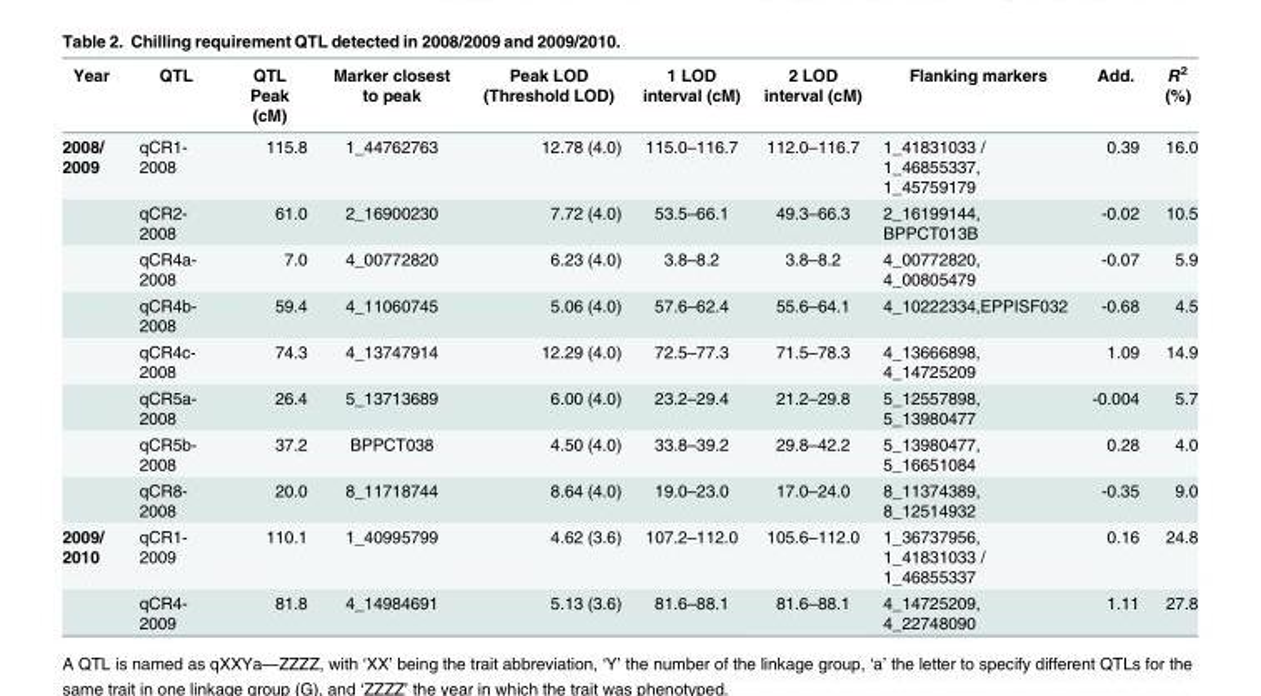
<table><thead><tr><td>Year</td><td>QTL</td><td>QTL Peak (cM)</td><td>Marker closest to peak</td><td>Peak LOD (Threshold LOD)</td><td>1 LOD interval (cM)</td><td>2 LOD interval (cM)</td><td>Flanking markers</td><td>Add.</td><td>R<sup>2</sup> (%)</td></tr></thead><tbody><tr><td rowspan="8">2008/ 2009</td><td>qCR1- 2008</td><td>115.8</td><td>1_44762763</td><td>12.78 (4.0)</td><td>115.0–116.7</td><td>112.0–116.7</td><td>1_41831033 / 1_46855337, 1_45759179</td><td>0.39</td><td>16.0</td></tr><tr><td>qCR2- 2008</td><td>61.0</td><td>2_16900230</td><td>7.72 (4.0)</td><td>53.5–66.1</td><td>49.3–66.3</td><td>2_16199144, BPPCT013B</td><td>-0.02</td><td>10.5</td></tr><tr><td>qCR4a- 2008</td><td>7.0</td><td>4_00772820</td><td>6.23 (4.0)</td><td>3.8–8.2</td><td>3.8–8.2</td><td>4_00772820, 4_00805479</td><td>-0.07</td><td>5.9</td></tr><tr><td>qCR4b- 2008</td><td>59.4</td><td>4_11060745</td><td>5.06 (4.0)</td><td>57.6–62.4</td><td>55.6–64.1</td><td>4_10222334,EPPISF032</td><td>-0.68</td><td>4.5</td></tr><tr><td>qCR4c- 2008</td><td>74.3</td><td>4_13747914</td><td>12.29 (4.0)</td><td>72.5–77.3</td><td>71.5–78.3</td><td>4_13666898, 4_14725209</td><td>1.09</td><td>14.9</td></tr><tr><td>qCR5a- 2008</td><td>26.4</td><td>5_13713689</td><td>6.00 (4.0)</td><td>23.2–29.4</td><td>21.2–29.8</td><td>5_12557898, 5_13980477</td><td>-0.004</td><td>5.7</td></tr><tr><td>qCR5b- 2008</td><td>37.2</td><td>BPPCT038</td><td>4.50 (4.0)</td><td>33.8–39.2</td><td>29.8–42.2</td><td>5_13980477, 5_16651084</td><td>0.28</td><td>4.0</td></tr><tr><td>qCR8- 2008</td><td>20.0</td><td>8_11718744</td><td>8.64 (4.0)</td><td>19.0–23.0</td><td>17.0–24.0</td><td>8_11374389, 8_12514932</td><td>-0.35</td><td>9.0</td></tr><tr><td rowspan="2">2009/ 2010</td><td>qCR1- 2009</td><td>110.1</td><td>1_40995799</td><td>4.62 (3.6)</td><td>107.2–112.0</td><td>105.6–112.0</td><td>1_36737956, 1_41831033 / 1_46855337</td><td>0.16</td><td>24.8</td></tr><tr><td>qCR4- 2009</td><td>81.8</td><td>4_14984691</td><td>5.13 (3.6)</td><td>81.6–88.1</td><td>81.6–88.1</td><td>4_14725209, 4_22748090</td><td>1.11</td><td>27.8</td></tr></tbody></table>